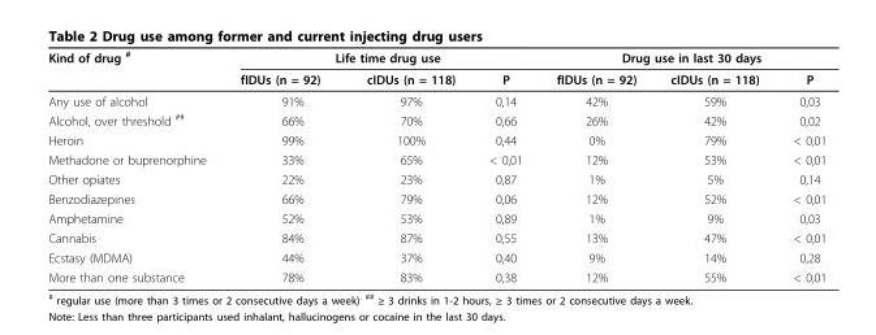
<table><thead><tr><td rowspan="2">Kind of drug <sup>#</sup></td><td colspan="3">Life time drug use</td><td colspan="3">Drug use in last 30 days</td></tr><tr><td>fIDUs (n = 92)</td><td>cIDUs (n = 118)</td><td>P</td><td>fIDUs (n = 92)</td><td>cIDUs (n = 118)</td><td>P</td></tr></thead><tbody><tr><td>Any use of alcohol</td><td>91%</td><td>97%</td><td>0,14</td><td>42%</td><td>59%</td><td>0,03</td></tr><tr><td>Alcohol, over threshold <sup>##</sup></td><td>66%</td><td>70%</td><td>0,66</td><td>26%</td><td>42%</td><td>0,02</td></tr><tr><td>Heroin</td><td>99%</td><td>100%</td><td>0,44</td><td>0%</td><td>79%</td><td>&lt; 0,01</td></tr><tr><td>Methadone or buprenorphine</td><td>33%</td><td>65%</td><td>&lt; 0,01</td><td>12%</td><td>53%</td><td>&lt; 0,01</td></tr><tr><td>Other opiates</td><td>22%</td><td>23%</td><td>0,87</td><td>1%</td><td>5%</td><td>0,14</td></tr><tr><td>Benzodiazepines</td><td>66%</td><td>79%</td><td>0,06</td><td>12%</td><td>52%</td><td>&lt; 0,01</td></tr><tr><td>Amphetamine</td><td>52%</td><td>53%</td><td>0,89</td><td>1%</td><td>9%</td><td>0,03</td></tr><tr><td>Cannabis</td><td>84%</td><td>87%</td><td>0,55</td><td>13%</td><td>47%</td><td>&lt; 0,01</td></tr><tr><td>Ecstasy (MDMA)</td><td>44%</td><td>37%</td><td>0,40</td><td>9%</td><td>14%</td><td>0,28</td></tr><tr><td>More than one substance</td><td>78%</td><td>83%</td><td>0,38</td><td>12%</td><td>55%</td><td>&lt; 0,01</td></tr></tbody></table>